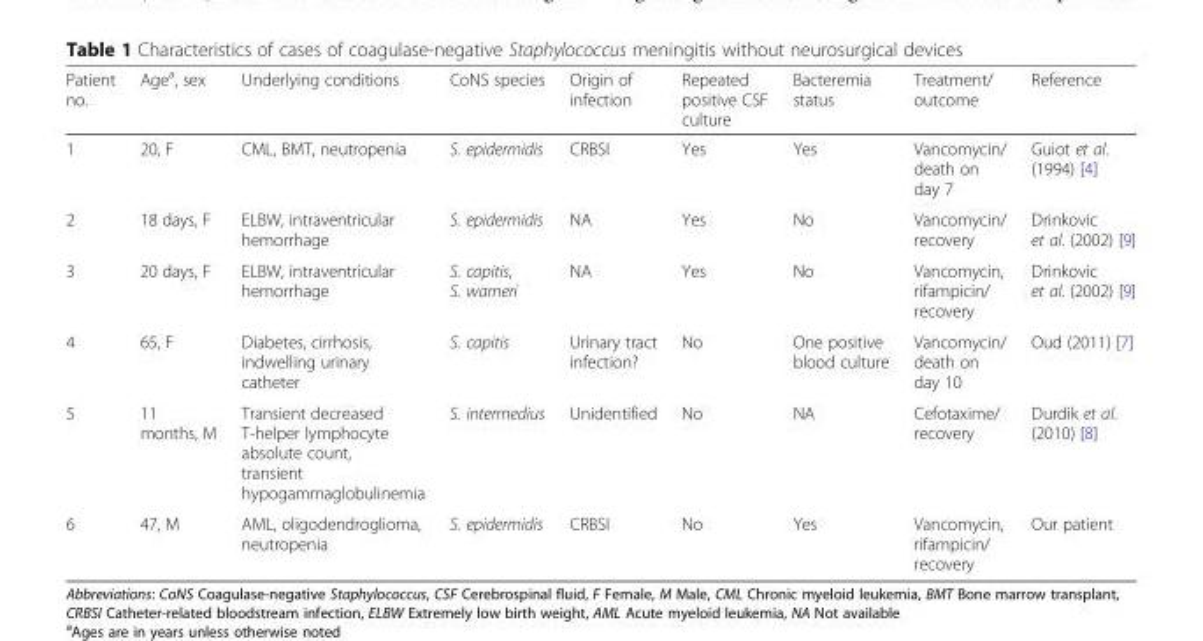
<table><thead><tr><td>Patient no.</td><td>Age<sup>a</sup>, sex</td><td>Underlying conditions</td><td>CoNS species</td><td>Origin of infection</td><td>Repeated positive CSF culture</td><td>Bacteremia status</td><td>Treatment/ outcome</td><td>Reference</td></tr></thead><tbody><tr><td>1</td><td>20, F</td><td>CML, BMT, neutropenia</td><td>S. epidermidis</td><td>CRBSI</td><td>Yes</td><td>Yes</td><td>Vancomycin/ death on day 7</td><td>Guiot et al. (1994) [4]</td></tr><tr><td>2</td><td>18 days, F</td><td>ELBW, intraventricular hemorrhage</td><td>S. epidermidis</td><td>NA</td><td>Yes</td><td>No</td><td>Vancomycin/ recovery</td><td>Drinkovic et al. (2002) [9]</td></tr><tr><td>3</td><td>20 days, F</td><td>ELBW, intraventricular hemorrhage</td><td>S. capitis, S. warneri</td><td>NA</td><td>Yes</td><td>No</td><td>Vancomycin, rifampicin/ recovery</td><td>Drinkovic et al. (2002) [9]</td></tr><tr><td>4</td><td>65, F</td><td>Diabetes, cirrhosis, indwelling urinary catheter</td><td>S. capitis</td><td>Urinary tract infection?</td><td>No</td><td>One positive blood culture</td><td>Vancomycin/ death on day 10</td><td>Oud (2011) [7]</td></tr><tr><td>5</td><td>11 months, M</td><td>Transient decreased T-helper lymphocyte absolute count, transient hypogammaglobulinemia</td><td>S. intermedius</td><td>Unidentified</td><td>No</td><td>NA</td><td>Cefotaxime/ recovery</td><td>Durdik et al. (2010) [8]</td></tr><tr><td>6</td><td>47, M</td><td>AML, oligodendroglioma, neutropenia</td><td>S. epidermidis</td><td>CRBSI</td><td>No</td><td>Yes</td><td>Vancomycin, rifampicin/ recovery</td><td>Our patient</td></tr></tbody></table>